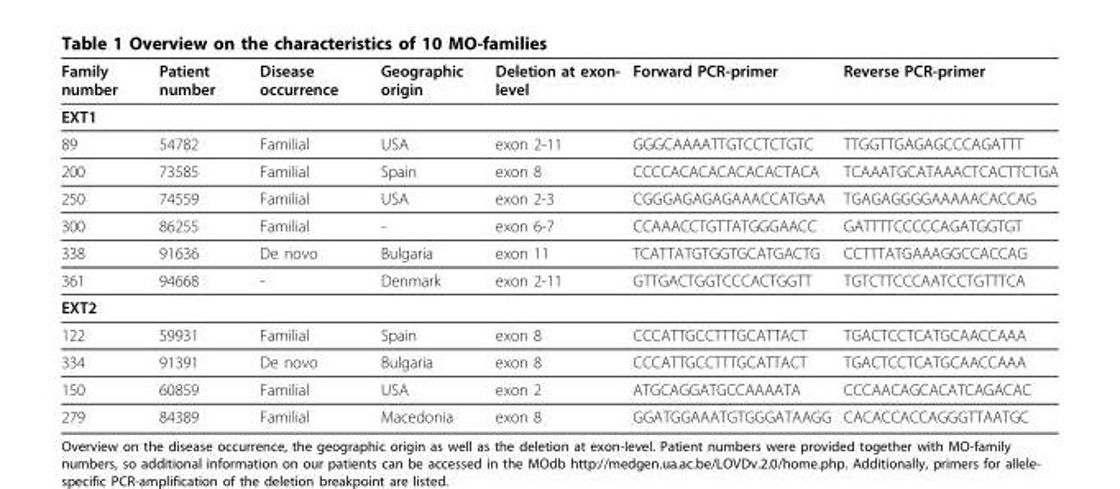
<table><thead><tr><td>Family number</td><td>Patient number</td><td>Disease occurrence</td><td>Geographic origin</td><td>Deletion at exon- level</td><td>Forward PCR-primer</td><td>Reverse PCR-primer</td></tr></thead><tbody><tr><td colspan="7">EXT1</td></tr><tr><td>89</td><td>54782</td><td>Familial</td><td>USA</td><td>exon 2-11</td><td>GGGCAAAATTGTCCTCTGTC</td><td>TTGGTTGAGAGCCCAGATTT</td></tr><tr><td>200</td><td>73585</td><td>Familial</td><td>Spain</td><td>exon 8</td><td>CCCCACACACACACACTACA</td><td>TCAAATGCATAAACTCACTTCTGA</td></tr><tr><td>250</td><td>74559</td><td>Familial</td><td>USA</td><td>exon 2-3</td><td>CGGGAGAGAGAAACCATGAA</td><td>TGAGAGGGGAAAAACACCAG</td></tr><tr><td>300</td><td>86255</td><td>Familial</td><td>-</td><td>exon 6-7</td><td>CCAAACCTGTTATGGGAACC</td><td>GATTTTCCCCCAGATGGTGT</td></tr><tr><td>338</td><td>91636</td><td>De novo</td><td>Bulgaria</td><td>exon 11</td><td>TCATTATGTGGTGCATGACTG</td><td>CCTTTATGAAAGGCCACCAG</td></tr><tr><td>361</td><td>94668</td><td>-</td><td>Denmark</td><td>exon 2-11</td><td>GTTGACTGGTCCCACTGGTT</td><td>TGTCTTCCCAATCCTGTTTCA</td></tr><tr><td colspan="7">EXT2</td></tr><tr><td>122</td><td>59931</td><td>Familial</td><td>Spain</td><td>exon 8</td><td>CCCATTGCCTTTGCATTACT</td><td>TGACTCCTCATGCAACCAAA</td></tr><tr><td>334</td><td>91391</td><td>De novo</td><td>Bulgaria</td><td>exon 8</td><td>CCCATTGCCTTTGCATTACT</td><td>TGACTCCTCATGCAACCAAA</td></tr><tr><td>150</td><td>60859</td><td>Familial</td><td>USA</td><td>exon 2</td><td>ATGCAGGATGCCAAAATA</td><td>CCCAACAGCACATCAGACAC</td></tr><tr><td>279</td><td>84389</td><td>Familial</td><td>Macedonia</td><td>exon 8</td><td>GGATGGAAATGTGGGATAAGG</td><td>CACACCACCAGGGTTAATGC</td></tr></tbody></table>